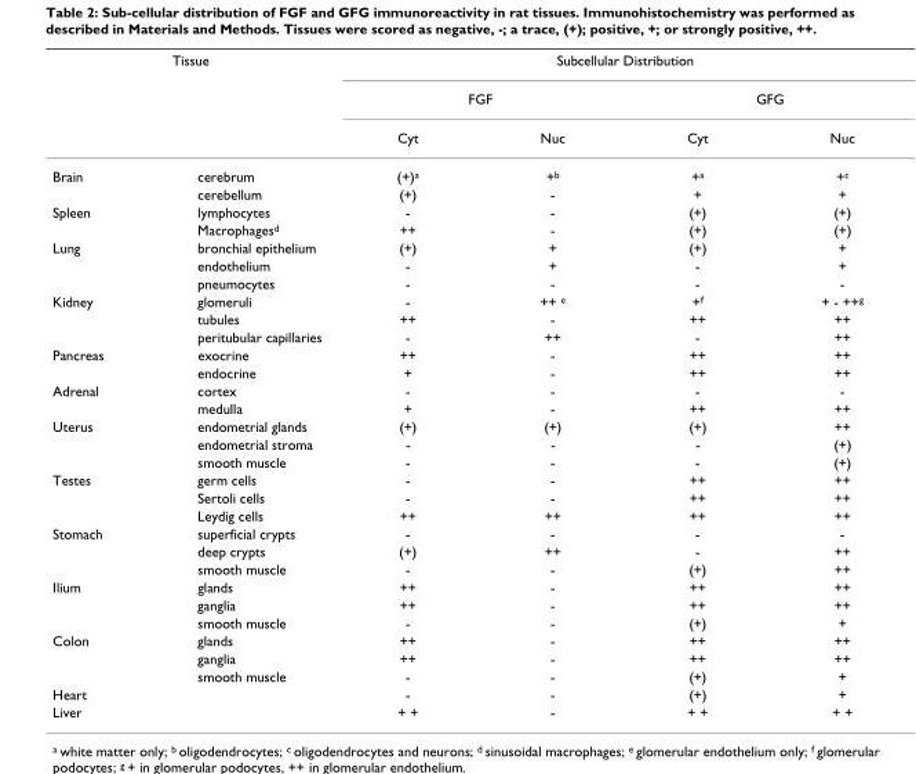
<table><thead><tr><td colspan="2">Tissue</td><td colspan="4">Subcellular Distribution</td></tr><tr><td rowspan="2"></td><td rowspan="2"></td><td colspan="2">FGF</td><td colspan="2">GFG</td></tr><tr><td>Cyt</td><td>Nuc</td><td>Cyt</td><td>Nuc</td></tr></thead><tbody><tr><td rowspan="2">Brain</td><td>cerebrum</td><td>(+)<sup>a</sup></td><td>+<sup>b</sup></td><td>+<sup>a</sup></td><td>+<sup>c</sup></td></tr><tr><td>cerebellum</td><td>(+)</td><td>-</td><td>+</td><td>+</td></tr><tr><td rowspan="2">Spleen</td><td>lymphocytes</td><td>-</td><td>-</td><td>(+)</td><td>(+)</td></tr><tr><td>Macrophages<sup>d</sup></td><td>++</td><td>-</td><td>(+)</td><td>(+)</td></tr><tr><td rowspan="3">Lung</td><td>bronchial epithelium</td><td>(+)</td><td>+</td><td>(+)</td><td>+</td></tr><tr><td>endothelium</td><td>-</td><td>+</td><td>-</td><td>+</td></tr><tr><td>pneumocytes</td><td>-</td><td>-</td><td>-</td><td>-</td></tr><tr><td rowspan="3">Kidney</td><td>glomeruli</td><td>-</td><td>++ <sup>e</sup></td><td>+<sup>f</sup></td><td>+ - ++<sup>g</sup></td></tr><tr><td>tubules</td><td>++</td><td>-</td><td>++</td><td>++</td></tr><tr><td>peritubular capillaries</td><td>-</td><td>++</td><td>-</td><td>++</td></tr><tr><td rowspan="2">Pancreas</td><td>exocrine</td><td>++</td><td>-</td><td>++</td><td>++</td></tr><tr><td>endocrine</td><td>+</td><td>-</td><td>++</td><td>++</td></tr><tr><td rowspan="2">Adrenal</td><td>cortex</td><td>-</td><td>-</td><td>-</td><td>-</td></tr><tr><td>medulla</td><td>+</td><td>-</td><td>++</td><td>++</td></tr><tr><td rowspan="3">Uterus</td><td>endometrial glands</td><td>(+)</td><td>(+)</td><td>(+)</td><td>++</td></tr><tr><td>endometrial stroma</td><td>-</td><td>-</td><td>-</td><td>(+)</td></tr><tr><td>smooth muscle</td><td>-</td><td>-</td><td>-</td><td>(+)</td></tr><tr><td rowspan="3">Testes</td><td>germ cells</td><td>-</td><td>-</td><td>++</td><td>++</td></tr><tr><td>Sertoli cells</td><td>-</td><td>-</td><td>++</td><td>++</td></tr><tr><td>Leydig cells</td><td>++</td><td>++</td><td>++</td><td>++</td></tr><tr><td rowspan="3">Stomach</td><td>superficial crypts</td><td>-</td><td>-</td><td>-</td><td>-</td></tr><tr><td>deep crypts</td><td>(+)</td><td>++</td><td>-</td><td>++</td></tr><tr><td>smooth muscle</td><td>-</td><td>-</td><td>(+)</td><td>++</td></tr><tr><td rowspan="3">Ilium</td><td>glands</td><td>++</td><td>-</td><td>++</td><td>++</td></tr><tr><td>ganglia</td><td>++</td><td>-</td><td>++</td><td>++</td></tr><tr><td>smooth muscle</td><td>-</td><td>-</td><td>(+)</td><td>+</td></tr><tr><td rowspan="3">Colon</td><td>glands</td><td>++</td><td>-</td><td>++</td><td>++</td></tr><tr><td>ganglia</td><td>++</td><td>-</td><td>++</td><td>++</td></tr><tr><td>smooth muscle</td><td>-</td><td>-</td><td>(+)</td><td>+</td></tr><tr><td>Heart</td><td></td><td>-</td><td>-</td><td>(+)</td><td>+</td></tr><tr><td>Liver</td><td></td><td>+ +</td><td>-</td><td>+ +</td><td>+ +</td></tr></tbody></table>